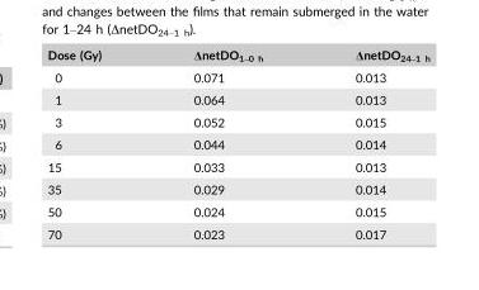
<table><thead><tr><td>Dose (Gy)</td><td>ΔnetDO<sub>1–0 h</sub></td><td>ΔnetDO<sub>24–1 h</sub></td></tr></thead><tbody><tr><td>0</td><td>0.071</td><td>0.013</td></tr><tr><td>1</td><td>0.064</td><td>0.013</td></tr><tr><td>3</td><td>0.052</td><td>0.015</td></tr><tr><td>6</td><td>0.044</td><td>0.014</td></tr><tr><td>15</td><td>0.033</td><td>0.013</td></tr><tr><td>35</td><td>0.029</td><td>0.014</td></tr><tr><td>50</td><td>0.024</td><td>0.015</td></tr><tr><td>70</td><td>0.023</td><td>0.017</td></tr></tbody></table>